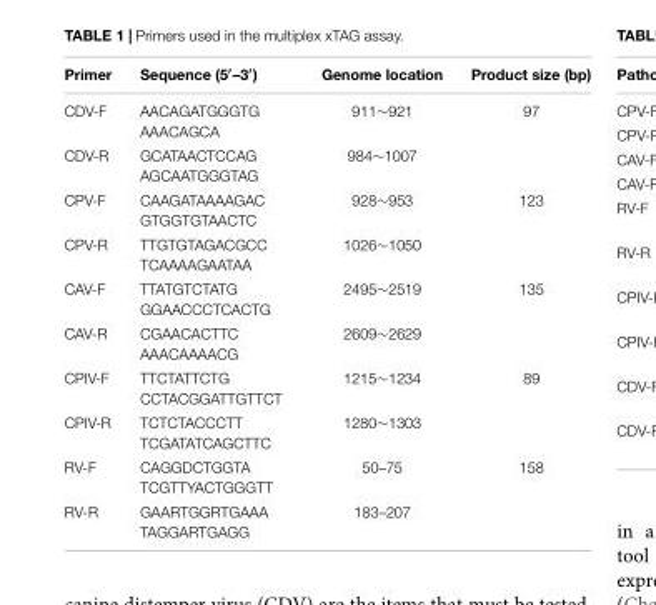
<table><thead><tr><td>Primer</td><td>Sequence (5′–3′)</td><td>Genome location</td><td>Product size (bp)</td></tr></thead><tbody><tr><td>CDV-F</td><td>AACAGATGGGTG AAACAGCA</td><td>911∼921</td><td>97</td></tr><tr><td>CDV-R</td><td>GCATAACTCCAG AGCAATGGGTAG</td><td>984∼1007</td><td></td></tr><tr><td>CPV-F</td><td>CAAGATAAAAGAC GTGGTGTAACTC</td><td>928∼953</td><td>123</td></tr><tr><td>CPV-R</td><td>TTGTGTAGACGCC TCAAAAGAATAA</td><td>1026∼1050</td><td></td></tr><tr><td>CAV-F</td><td>TTATGTCTATG GGAACCCTCACTG</td><td>2495∼2519</td><td>135</td></tr><tr><td>CAV-R</td><td>CGAACACTTC AAACAAAACG</td><td>2609∼2629</td><td></td></tr><tr><td>CPIV-F</td><td>TTCTATTCTG CCTACGGATTGTTCT</td><td>1215∼1234</td><td>89</td></tr><tr><td>CPIV-R</td><td>TCTCTACCCTT TCGATATCAGCTTC</td><td>1280∼1303</td><td></td></tr><tr><td>RV-F</td><td>CAGGDCTGGTA TCGTTYACTGGGTT</td><td>50–75</td><td>158</td></tr><tr><td>RV-R</td><td>GAARTGGRTGAAA TAGGARTGAGG</td><td>183–207</td><td></td></tr></tbody></table>